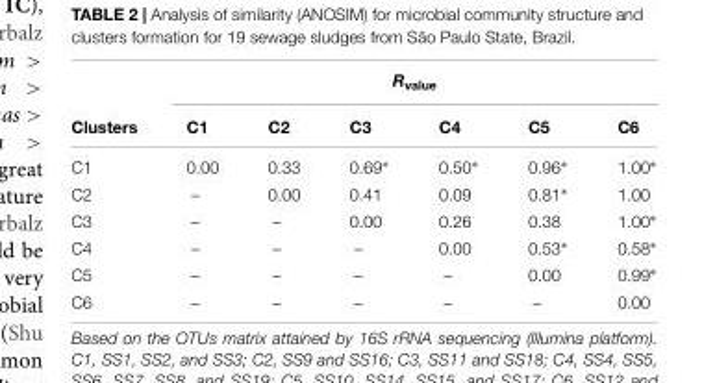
<table><thead><tr><td rowspan="2">Clusters</td><td colspan="6">R<sub>value</sub></td></tr><tr><td>C1</td><td>C2</td><td>C3</td><td>C4</td><td>C5</td><td>C6</td></tr></thead><tbody><tr><td>C1</td><td>0.00</td><td>0.33</td><td>0.69∗</td><td>0.50∗</td><td>0.96∗</td><td>1.00∗</td></tr><tr><td>C2</td><td>–</td><td>0.00</td><td>0.41</td><td>0.09</td><td>0.81∗</td><td>1.00</td></tr><tr><td>C3</td><td>–</td><td>–</td><td>0.00</td><td>0.26</td><td>0.38</td><td>1.00∗</td></tr><tr><td>C4</td><td>–</td><td>–</td><td>–</td><td>0.00</td><td>0.53∗</td><td>0.58∗</td></tr><tr><td>C5</td><td>–</td><td>–</td><td>–</td><td>–</td><td>0.00</td><td>0.99∗</td></tr><tr><td>C6</td><td>–</td><td>–</td><td>–</td><td>–</td><td>–</td><td>0.00</td></tr></tbody></table>